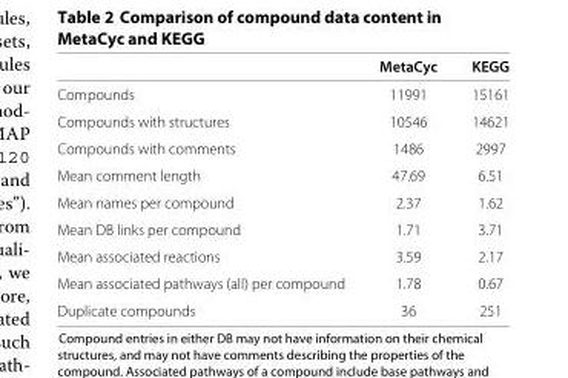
<table><thead><tr><td></td><td>MetaCyc</td><td>KEGG</td></tr></thead><tbody><tr><td>Compounds</td><td>11991</td><td>15161</td></tr><tr><td>Compounds with structures</td><td>10546</td><td>14621</td></tr><tr><td>Compounds with comments</td><td>1486</td><td>2997</td></tr><tr><td>Mean comment length</td><td>47.69</td><td>6.51</td></tr><tr><td>Mean names per compound</td><td>2.37</td><td>1.62</td></tr><tr><td>Mean DB links per compound</td><td>1.71</td><td>3.71</td></tr><tr><td>Mean associated reactions</td><td>3.59</td><td>2.17</td></tr><tr><td>Mean associated pathways (all) per compound</td><td>1.78</td><td>0.67</td></tr><tr><td>Duplicate compounds</td><td>36</td><td>251</td></tr></tbody></table>